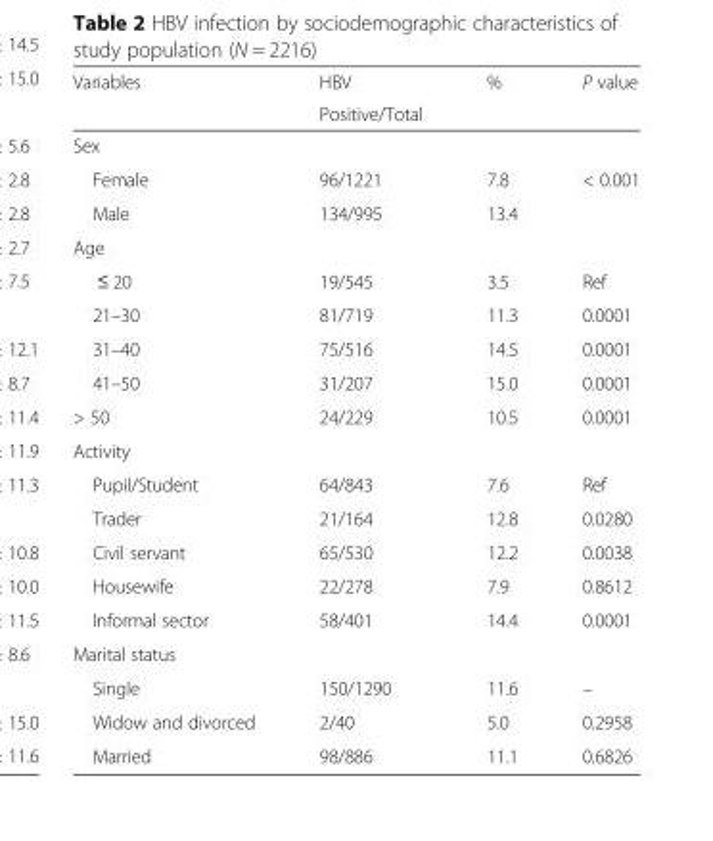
<table><thead><tr><td rowspan="2">Variables</td><td rowspan="2">HBV Positive/Total</td><td rowspan="2">%</td><td rowspan="2">P value</td></tr><tr></tr></thead><tbody><tr><td colspan="4">Sex</td></tr><tr><td>Female</td><td>96/1221</td><td>7.8</td><td>&lt; 0.001</td></tr><tr><td>Male</td><td>134/995</td><td>13.4</td><td></td></tr><tr><td colspan="4">Age</td></tr><tr><td>≤ 20</td><td>19/545</td><td>3.5</td><td>Ref</td></tr><tr><td>21–30</td><td>81/719</td><td>11.3</td><td>0.0001</td></tr><tr><td>31–40</td><td>75/516</td><td>14.5</td><td>0.0001</td></tr><tr><td>41–50</td><td>31/207</td><td>15.0</td><td>0.0001</td></tr><tr><td>&gt; 50</td><td>24/229</td><td>10.5</td><td>0.0001</td></tr><tr><td colspan="4">Activity</td></tr><tr><td>Pupil/Student</td><td>64/843</td><td>7.6</td><td>Ref</td></tr><tr><td>Trader</td><td>21/164</td><td>12.8</td><td>0.0280</td></tr><tr><td>Civil servant</td><td>65/530</td><td>12.2</td><td>0.0038</td></tr><tr><td>Housewife</td><td>22/278</td><td>7.9</td><td>0.8612</td></tr><tr><td>Informal sector</td><td>58/401</td><td>14.4</td><td>0.0001</td></tr><tr><td colspan="4">Marital status</td></tr><tr><td>Single</td><td>150/1290</td><td>11.6</td><td>–</td></tr><tr><td>Widow and divorced</td><td>2/40</td><td>5.0</td><td>0.2958</td></tr><tr><td>Married</td><td>98/886</td><td>11.1</td><td>0.6826</td></tr></tbody></table>